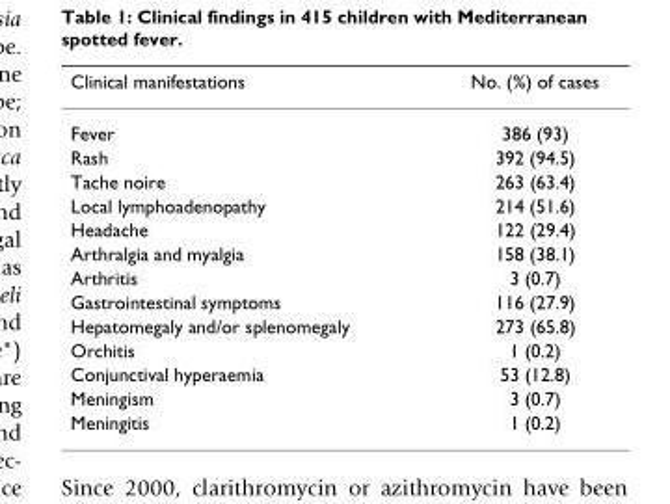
<table><thead><tr><td>Clinical manifestations</td><td>No. (%) of cases</td></tr></thead><tbody><tr><td>Fever</td><td>386 (93)</td></tr><tr><td>Rash</td><td>392 (94.5)</td></tr><tr><td>Tache noire</td><td>263 (63.4)</td></tr><tr><td>Local lymphoadenopathy</td><td>214 (51.6)</td></tr><tr><td>Headache</td><td>122 (29.4)</td></tr><tr><td>Arthralgia and myalgia</td><td>158 (38.1)</td></tr><tr><td>Arthritis</td><td>3 (0.7)</td></tr><tr><td>Gastrointestinal symptoms</td><td>116 (27.9)</td></tr><tr><td>Hepatomegaly and/or splenomegaly</td><td>273 (65.8)</td></tr><tr><td>Orchitis</td><td>1 (0.2)</td></tr><tr><td>Conjunctival hyperaemia</td><td>53 (12.8)</td></tr><tr><td>Meningism</td><td>3 (0.7)</td></tr><tr><td>Meningitis</td><td>1 (0.2)</td></tr></tbody></table>